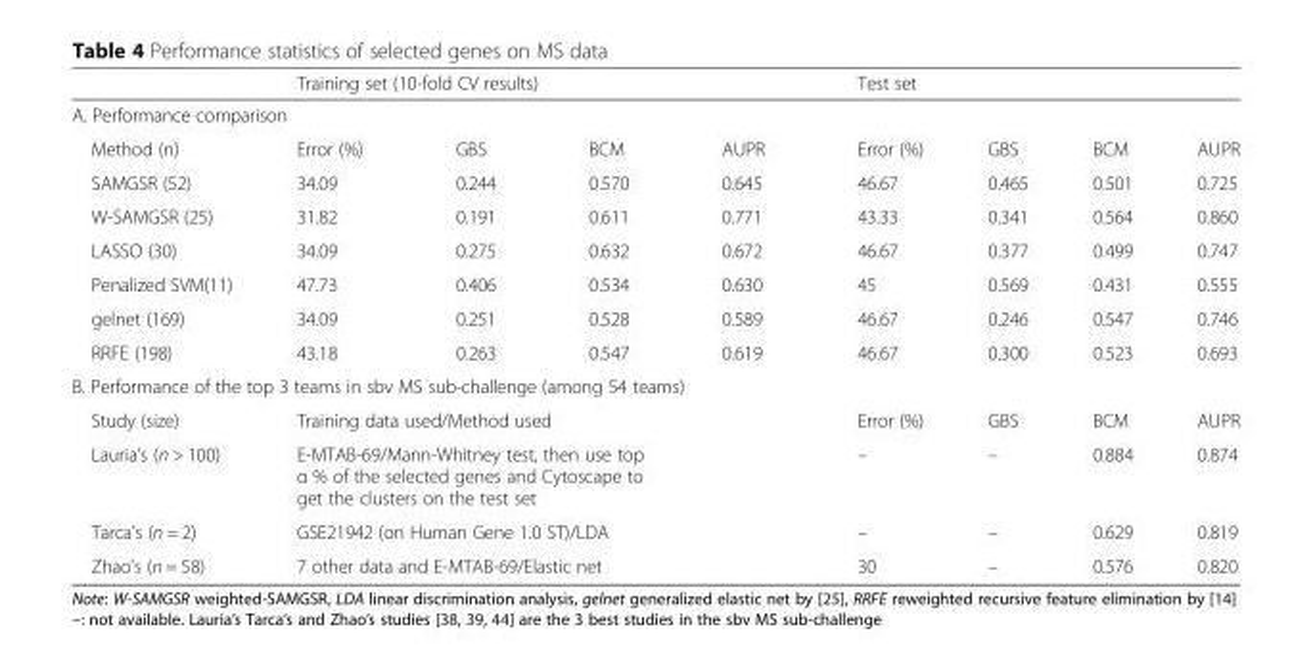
<table><thead><tr><td></td><td colspan="4">Training set (10-fold CV results)</td><td colspan="4">Test set</td></tr><tr><td colspan="9">A. Performance comparison</td></tr><tr><td>Method (n)</td><td>Error (%)</td><td>GBS</td><td>BCM</td><td>AUPR</td><td>Error (%)</td><td>GBS</td><td>BCM</td><td>AUPR</td></tr></thead><tbody><tr><td>SAMGSR (52)</td><td>34.09</td><td>0.244</td><td>0.570</td><td>0.645</td><td>46.67</td><td>0.465</td><td>0.501</td><td>0.725</td></tr><tr><td>W-SAMGSR (25)</td><td>31.82</td><td>0.191</td><td>0.611</td><td>0.771</td><td>43.33</td><td>0.341</td><td>0.564</td><td>0.860</td></tr><tr><td>LASSO (30)</td><td>34.09</td><td>0.275</td><td>0.632</td><td>0.672</td><td>46.67</td><td>0.377</td><td>0.499</td><td>0.747</td></tr><tr><td>Penalized SVM(11)</td><td>47.73</td><td>0.406</td><td>0.534</td><td>0.630</td><td>45</td><td>0.569</td><td>0.431</td><td>0.555</td></tr><tr><td>gelnet (169)</td><td>34.09</td><td>0.251</td><td>0.528</td><td>0.589</td><td>46.67</td><td>0.246</td><td>0.547</td><td>0.746</td></tr><tr><td>RRFE (198)</td><td>43.18</td><td>0.263</td><td>0.547</td><td>0.619</td><td>46.67</td><td>0.300</td><td>0.523</td><td>0.693</td></tr><tr><td colspan="9">B. Performance of the top 3 teams in sbv MS sub-challenge (among 54 teams)</td></tr><tr><td>Study (size)</td><td colspan="4">Training data used/Method used</td><td>Error (%)</td><td>GBS</td><td>BCM</td><td>AUPR</td></tr><tr><td>Lauria’s (n &gt; 100)</td><td colspan="4">E-MTAB-69/Mann-Whitney test, then use top α % of the selected genes and Cytoscape to get the clusters on the test set</td><td>–</td><td>–</td><td>0.884</td><td>0.874</td></tr><tr><td>Tarca’s (n = 2)</td><td colspan="4">GSE21942 (on Human Gene 1.0 ST)/LDA</td><td>–</td><td>–</td><td>0.629</td><td>0.819</td></tr><tr><td>Zhao’s (n = 58)</td><td colspan="4">7 other data and E-MTAB-69/Elastic net</td><td>30</td><td>–</td><td>0.576</td><td>0.820</td></tr></tbody></table>